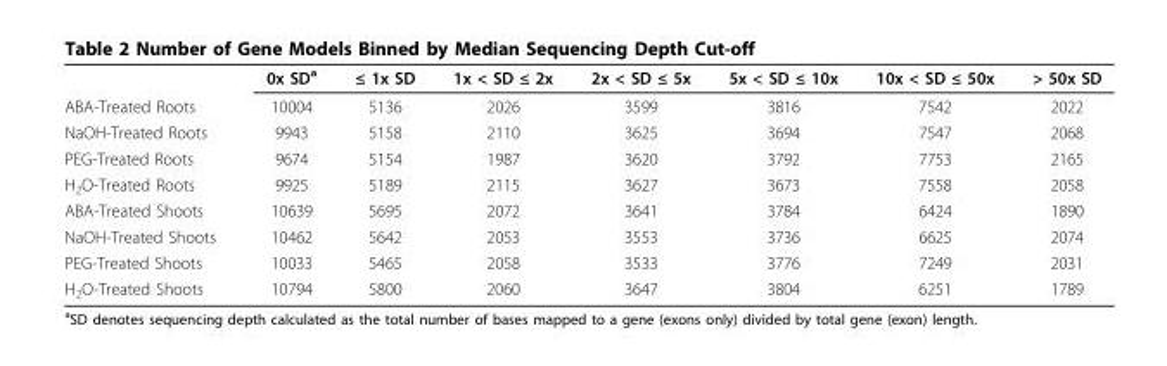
<table><thead><tr><td></td><td>0x SD<sup>a</sup></td><td>≤ 1x SD</td><td>1x &lt; SD ≤ 2x</td><td>2x &lt; SD ≤ 5x</td><td>5x &lt; SD ≤ 10x</td><td>10x &lt; SD ≤ 50x</td><td>&gt; 50x SD</td></tr></thead><tbody><tr><td>ABA-Treated Roots</td><td>10004</td><td>5136</td><td>2026</td><td>3599</td><td>3816</td><td>7542</td><td>2022</td></tr><tr><td>NaOH-Treated Roots</td><td>9943</td><td>5158</td><td>2110</td><td>3625</td><td>3694</td><td>7547</td><td>2068</td></tr><tr><td>PEG-Treated Roots</td><td>9674</td><td>5154</td><td>1987</td><td>3620</td><td>3792</td><td>7753</td><td>2165</td></tr><tr><td>H<sub>2</sub>O-Treated Roots</td><td>9925</td><td>5189</td><td>2115</td><td>3627</td><td>3673</td><td>7558</td><td>2058</td></tr><tr><td>ABA-Treated Shoots</td><td>10639</td><td>5695</td><td>2072</td><td>3641</td><td>3784</td><td>6424</td><td>1890</td></tr><tr><td>NaOH-Treated Shoots</td><td>10462</td><td>5642</td><td>2053</td><td>3553</td><td>3736</td><td>6625</td><td>2074</td></tr><tr><td>PEG-Treated Shoots</td><td>10033</td><td>5465</td><td>2058</td><td>3533</td><td>3776</td><td>7249</td><td>2031</td></tr><tr><td>H<sub>2</sub>O-Treated Shoots</td><td>10794</td><td>5800</td><td>2060</td><td>3647</td><td>3804</td><td>6251</td><td>1789</td></tr></tbody></table>